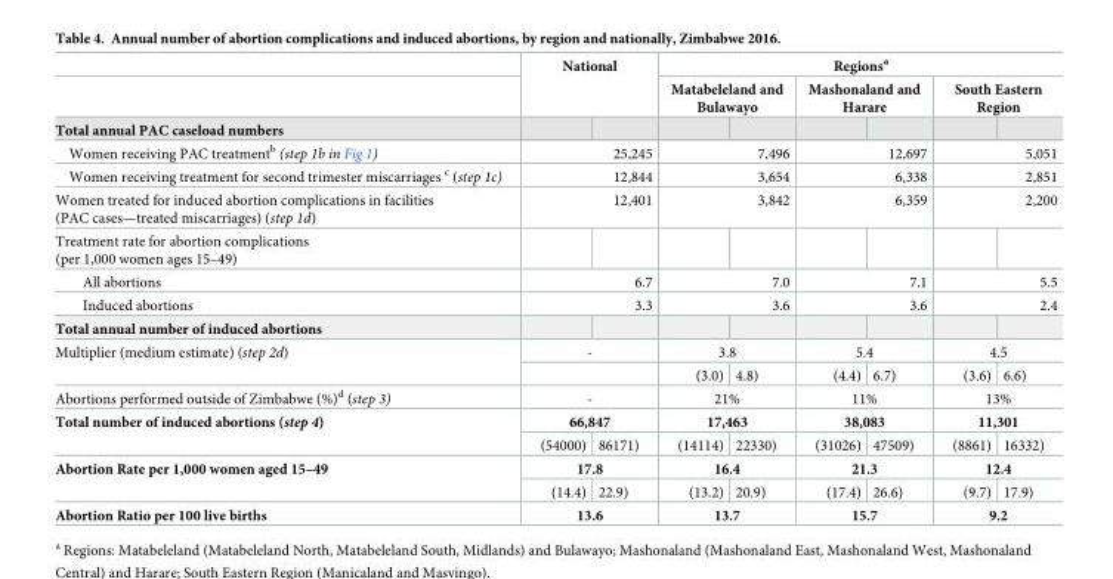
<table><thead><tr><td rowspan="3">Total annual PAC caseload numbers</td><td rowspan="2" colspan="2">National</td><td colspan="6">Regions<sup>a</sup></td></tr><tr><td colspan="2">Matabeleland and Bulawayo</td><td colspan="2">Mashonaland and Harare</td><td colspan="2">South Eastern Region</td></tr><tr><td></td><td></td><td></td><td></td><td></td><td></td><td></td><td></td></tr></thead><tbody><tr><td>Women receiving PAC treatment<sup>b</sup> (step 1b in Fig 1)</td><td colspan="2">25,245</td><td colspan="2">7,496</td><td colspan="2">12,697</td><td colspan="2">5,051</td></tr><tr><td>Women receiving treatment for second trimester miscarriages <sup>c</sup> (step 1c)</td><td colspan="2">12,844</td><td colspan="2">3,654</td><td colspan="2">6,338</td><td colspan="2">2,851</td></tr><tr><td>Women treated for induced abortion complications in facilities (PAC cases—treated miscarriages) (step 1d)</td><td colspan="2">12,401</td><td colspan="2">3,842</td><td colspan="2">6,359</td><td colspan="2">2,200</td></tr><tr><td colspan="9">Treatment rate for abortion complications (per 1,000 women ages 15–49)</td></tr><tr><td>All abortions</td><td colspan="2">6.7</td><td colspan="2">7.0</td><td colspan="2">7.1</td><td colspan="2">5.5</td></tr><tr><td>Induced abortions</td><td colspan="2">3.3</td><td colspan="2">3.6</td><td colspan="2">3.6</td><td colspan="2">2.4</td></tr><tr><td colspan="9">Total annual number of induced abortions</td></tr><tr><td rowspan="2">Multiplier (medium estimate) (step 2d)</td><td colspan="2">-</td><td colspan="2">3.8</td><td colspan="2">5.4</td><td colspan="2">4.5</td></tr><tr><td colspan="2"></td><td>(3.0)</td><td>4.8)</td><td>(4.4)</td><td>6.7)</td><td>(3.6)</td><td>6.6)</td></tr><tr><td>Abortions performed outside of Zimbabwe (%)<sup>d</sup> (step 3)</td><td colspan="2">-</td><td colspan="2">21%</td><td colspan="2">11%</td><td colspan="2">13%</td></tr><tr><td rowspan="2">Total number of induced abortions (step 4)</td><td colspan="2">66,847</td><td colspan="2">17,463</td><td colspan="2">38,083</td><td colspan="2">11,301</td></tr><tr><td>(54000)</td><td>86171)</td><td>(14114)</td><td>22330)</td><td>(31026)</td><td>47509)</td><td>(8861)</td><td>16332)</td></tr><tr><td rowspan="2">Abortion Rate per 1,000 women aged 15–49</td><td colspan="2">17.8</td><td colspan="2">16.4</td><td colspan="2">21.3</td><td colspan="2">12.4</td></tr><tr><td>(14.4)</td><td>22.9)</td><td>(13.2)</td><td>20.9)</td><td>(17.4)</td><td>26.6)</td><td>(9.7)</td><td>17.9)</td></tr><tr><td>Abortion Ratio per 100 live births</td><td colspan="2">13.6</td><td colspan="2">13.7</td><td colspan="2">15.7</td><td colspan="2">9.2</td></tr></tbody></table>